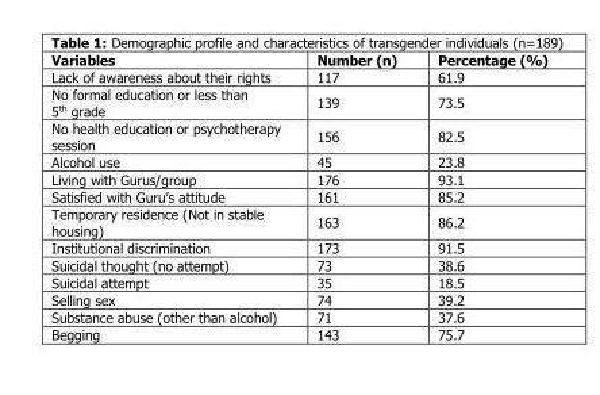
<table><thead><tr><td>Variables</td><td>Number (n)</td><td>Percentage (%)</td></tr></thead><tbody><tr><td>Lack of awareness about their rights</td><td>117</td><td>61.9</td></tr><tr><td>No formal education or less than 5<sup>th</sup> grade</td><td>139</td><td>73.5</td></tr><tr><td>No health education or psychotherapy session</td><td>156</td><td>82.5</td></tr><tr><td>Alcohol use</td><td>45</td><td>23.8</td></tr><tr><td>Living with Gurus/group</td><td>176</td><td>93.1</td></tr><tr><td>Satisfied with Guru’s attitude</td><td>161</td><td>85.2</td></tr><tr><td>Temporary residence (Not in stable housing)</td><td>163</td><td>86.2</td></tr><tr><td>Institutional discrimination</td><td>173</td><td>91.5</td></tr><tr><td>Suicidal thought (no attempt)</td><td>73</td><td>38.6</td></tr><tr><td>Suicidal attempt</td><td>35</td><td>18.5</td></tr><tr><td>Selling sex</td><td>74</td><td>39.2</td></tr><tr><td>Substance abuse (other than alcohol)</td><td>71</td><td>37.6</td></tr><tr><td>Begging</td><td>143</td><td>75.7</td></tr></tbody></table>